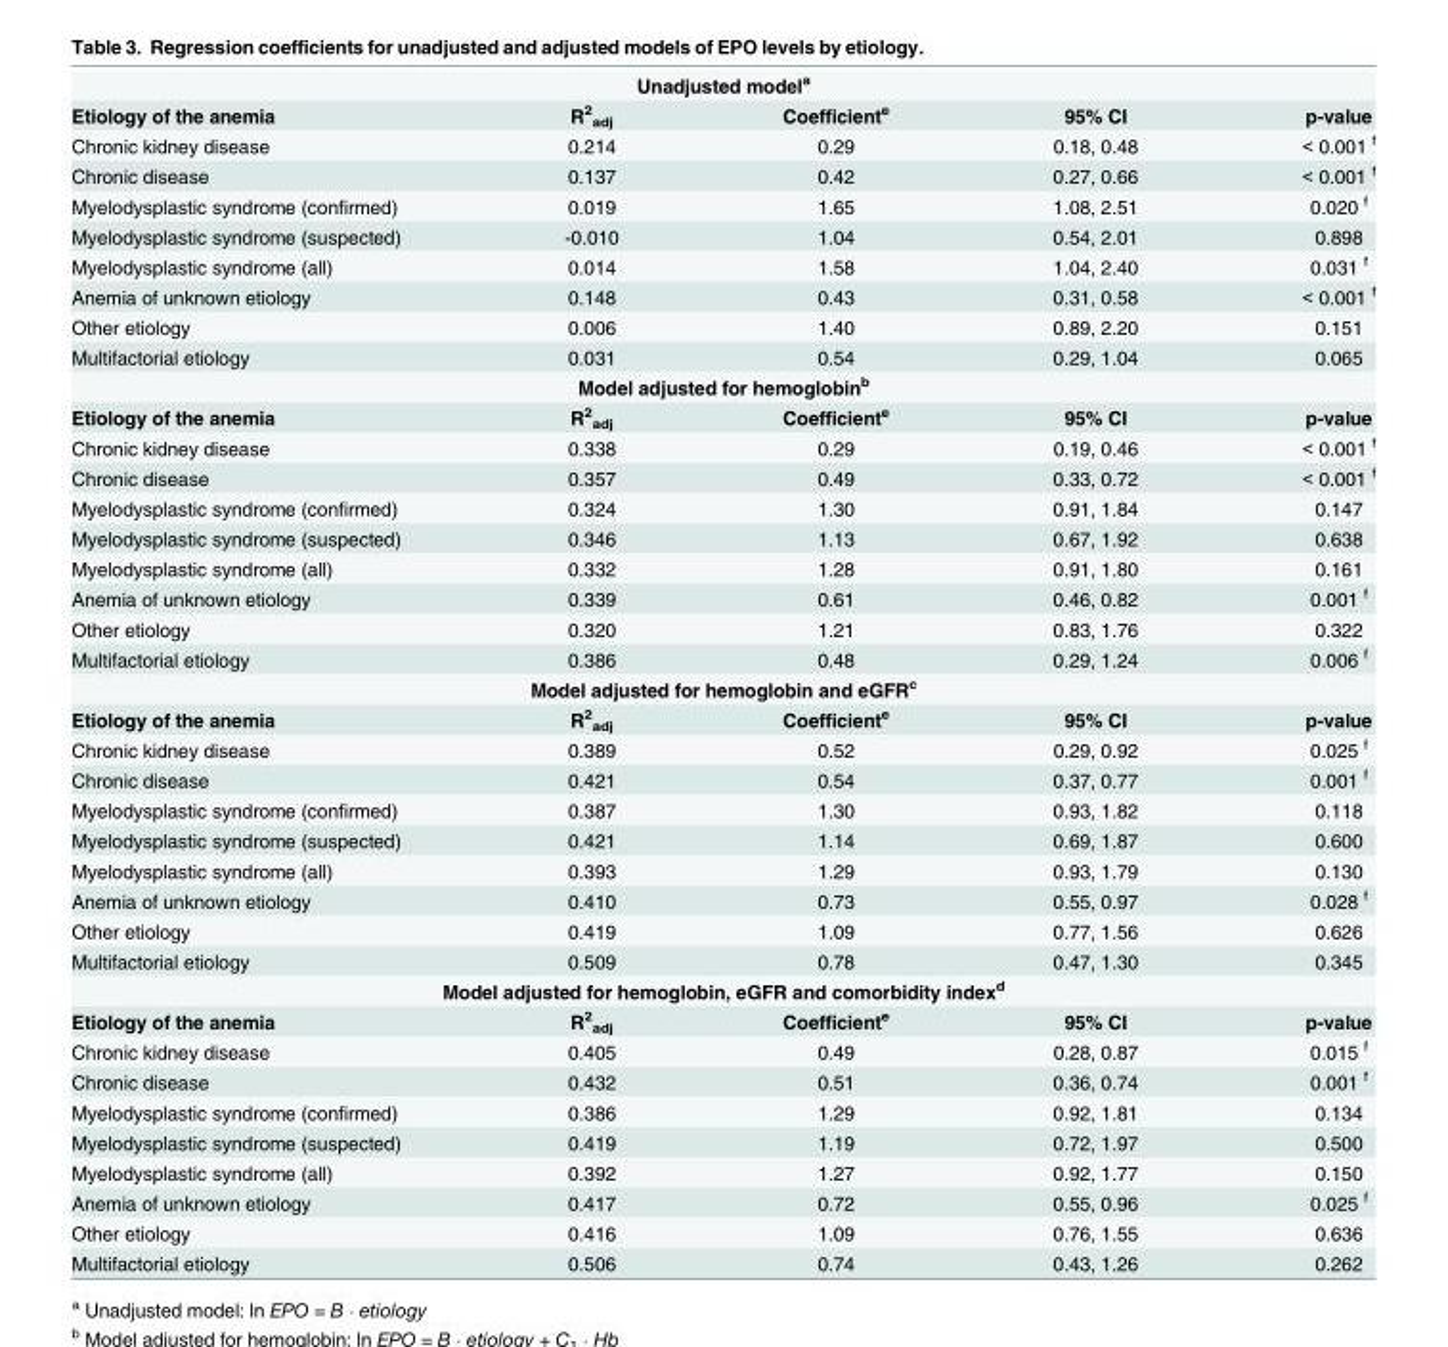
<table><tbody><tr><td colspan="5">Unadjusted model<sup>a</sup></td></tr><tr><td>Etiology of the anemia</td><td>R<sup>2</sup> <sub>adj</sub></td><td>Coefficient<sup>e</sup></td><td>95% CI</td><td>p-value</td></tr><tr><td>Chronic kidney disease</td><td>0.214</td><td>0.29</td><td>0.18, 0.48</td><td>&lt; 0.001 <sup>f</sup></td></tr><tr><td>Chronic disease</td><td>0.137</td><td>0.42</td><td>0.27, 0.66</td><td>&lt; 0.001 <sup>f</sup></td></tr><tr><td>Myelodysplastic syndrome (confirmed)</td><td>0.019</td><td>1.65</td><td>1.08, 2.51</td><td>0.020 <sup>f</sup></td></tr><tr><td>Myelodysplastic syndrome (suspected)</td><td>-0.010</td><td>1.04</td><td>0.54, 2.01</td><td>0.898</td></tr><tr><td>Myelodysplastic syndrome (all)</td><td>0.014</td><td>1.58</td><td>1.04, 2.40</td><td>0.031 <sup>f</sup></td></tr><tr><td>Anemia of unknown etiology</td><td>0.148</td><td>0.43</td><td>0.31, 0.58</td><td>&lt; 0.001 <sup>f</sup></td></tr><tr><td>Other etiology</td><td>0.006</td><td>1.40</td><td>0.89, 2.20</td><td>0.151</td></tr><tr><td>Multifactorial etiology</td><td>0.031</td><td>0.54</td><td>0.29, 1.04</td><td>0.065</td></tr><tr><td colspan="5">Model adjusted for hemoglobin<sup>b</sup></td></tr><tr><td>Etiology of the anemia</td><td>R<sup>2</sup> <sub>adj</sub></td><td>Coefficient<sup>e</sup></td><td>95% CI</td><td>p-value</td></tr><tr><td>Chronic kidney disease</td><td>0.338</td><td>0.29</td><td>0.19, 0.46</td><td>&lt; 0.001 <sup>f</sup></td></tr><tr><td>Chronic disease</td><td>0.357</td><td>0.49</td><td>0.33, 0.72</td><td>&lt; 0.001 <sup>f</sup></td></tr><tr><td>Myelodysplastic syndrome (confirmed)</td><td>0.324</td><td>1.30</td><td>0.91, 1.84</td><td>0.147</td></tr><tr><td>Myelodysplastic syndrome (suspected)</td><td>0.346</td><td>1.13</td><td>0.67, 1.92</td><td>0.638</td></tr><tr><td>Myelodysplastic syndrome (all)</td><td>0.332</td><td>1.28</td><td>0.91, 1.80</td><td>0.161</td></tr><tr><td>Anemia of unknown etiology</td><td>0.339</td><td>0.61</td><td>0.46, 0.82</td><td>0.001 <sup>f</sup></td></tr><tr><td>Other etiology</td><td>0.320</td><td>1.21</td><td>0.83, 1.76</td><td>0.322</td></tr><tr><td>Multifactorial etiology</td><td>0.386</td><td>0.48</td><td>0.29, 1.24</td><td>0.006 <sup>f</sup></td></tr><tr><td colspan="5">Model adjusted for hemoglobin and eGFR<sup>c</sup></td></tr><tr><td>Etiology of the anemia</td><td>R<sup>2</sup> <sub>adj</sub></td><td>Coefficient<sup>e</sup></td><td>95% CI</td><td>p-value</td></tr><tr><td>Chronic kidney disease</td><td>0.389</td><td>0.52</td><td>0.29, 0.92</td><td>0.025 <sup>f</sup></td></tr><tr><td>Chronic disease</td><td>0.421</td><td>0.54</td><td>0.37, 0.77</td><td>0.001 <sup>f</sup></td></tr><tr><td>Myelodysplastic syndrome (confirmed)</td><td>0.387</td><td>1.30</td><td>0.93, 1.82</td><td>0.118</td></tr><tr><td>Myelodysplastic syndrome (suspected)</td><td>0.421</td><td>1.14</td><td>0.69, 1.87</td><td>0.600</td></tr><tr><td>Myelodysplastic syndrome (all)</td><td>0.393</td><td>1.29</td><td>0.93, 1.79</td><td>0.130</td></tr><tr><td>Anemia of unknown etiology</td><td>0.410</td><td>0.73</td><td>0.55, 0.97</td><td>0.028 <sup>f</sup></td></tr><tr><td>Other etiology</td><td>0.419</td><td>1.09</td><td>0.77, 1.56</td><td>0.626</td></tr><tr><td>Multifactorial etiology</td><td>0.509</td><td>0.78</td><td>0.47, 1.30</td><td>0.345</td></tr><tr><td colspan="5">Model adjusted for hemoglobin, eGFR and comorbidity index<sup>d</sup></td></tr><tr><td>Etiology of the anemia</td><td>R<sup>2</sup> <sub>adj</sub></td><td>Coefficient<sup>e</sup></td><td>95% CI</td><td>p-value</td></tr><tr><td>Chronic kidney disease</td><td>0.405</td><td>0.49</td><td>0.28, 0.87</td><td>0.015 <sup>f</sup></td></tr><tr><td>Chronic disease</td><td>0.432</td><td>0.51</td><td>0.36, 0.74</td><td>0.001 <sup>f</sup></td></tr><tr><td>Myelodysplastic syndrome (confirmed)</td><td>0.386</td><td>1.29</td><td>0.92, 1.81</td><td>0.134</td></tr><tr><td>Myelodysplastic syndrome (suspected)</td><td>0.419</td><td>1.19</td><td>0.72, 1.97</td><td>0.500</td></tr><tr><td>Myelodysplastic syndrome (all)</td><td>0.392</td><td>1.27</td><td>0.92, 1.77</td><td>0.150</td></tr><tr><td>Anemia of unknown etiology</td><td>0.417</td><td>0.72</td><td>0.55, 0.96</td><td>0.025 <sup>f</sup></td></tr><tr><td>Other etiology</td><td>0.416</td><td>1.09</td><td>0.76, 1.55</td><td>0.636</td></tr><tr><td>Multifactorial etiology</td><td>0.506</td><td>0.74</td><td>0.43, 1.26</td><td>0.262</td></tr></tbody></table>